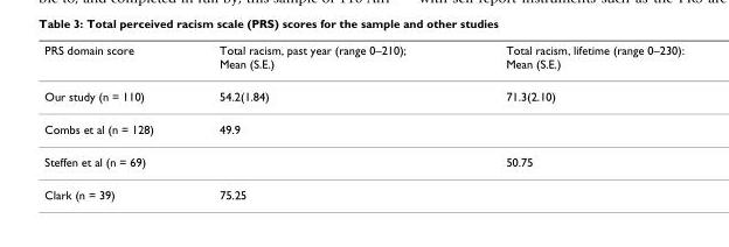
<table><thead><tr><td>PRS domain score</td><td>Total racism, past year (range 0–210); Mean (S.E.)</td><td>Total racism, lifetime (range 0–230): Mean (S.E.)</td></tr></thead><tbody><tr><td>Our study (n = 110)</td><td>54.2(1.84)</td><td>71.3(2.10)</td></tr><tr><td>Combs et al (n = 128)</td><td>49.9</td><td></td></tr><tr><td>Steffen et al (n = 69)</td><td></td><td>50.75</td></tr><tr><td>Clark (n = 39)</td><td>75.25</td><td></td></tr></tbody></table>